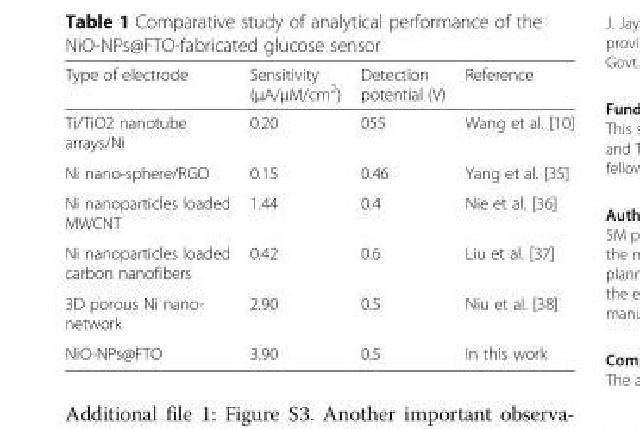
<table><thead><tr><td>Type of electrode</td><td>Sensitivity (μA/μM/cm<sup>2</sup>)</td><td>Detection potential (V)</td><td>Reference</td></tr></thead><tbody><tr><td>Ti/TiO2 nanotube arrays/Ni</td><td>0.20</td><td>055</td><td>Wang et al. [10]</td></tr><tr><td>Ni nano-sphere/RGO</td><td>0.15</td><td>0.46</td><td>Yang et al. [35]</td></tr><tr><td>Ni nanoparticles loaded MWCNT</td><td>1.44</td><td>0.4</td><td>Nie et al. [36]</td></tr><tr><td>Ni nanoparticles loaded carbon nanofibers</td><td>0.42</td><td>0.6</td><td>Liu et al. [37]</td></tr><tr><td>3D porous Ni nano- network</td><td>2.90</td><td>0.5</td><td>Niu et al. [38]</td></tr><tr><td>NiO-NPs@FTO</td><td>3.90</td><td>0.5</td><td>In this work</td></tr></tbody></table>